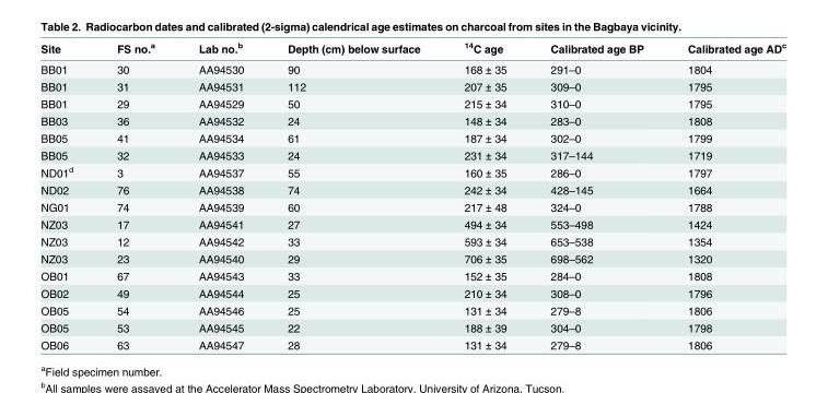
<table><thead><tr><td>Site</td><td>FS no.<sup>a</sup></td><td>Lab no.<sup>b</sup></td><td>Depth (cm) below surface</td><td><sup>14</sup>C age</td><td>Calibrated age BP</td><td>Calibrated age AD<sup>c</sup></td></tr></thead><tbody><tr><td>BB01</td><td>30</td><td>AA94530</td><td>90</td><td>168 ± 35</td><td>291–0</td><td>1804</td></tr><tr><td>BB01</td><td>31</td><td>AA94531</td><td>112</td><td>207 ± 35</td><td>309–0</td><td>1795</td></tr><tr><td>BB01</td><td>29</td><td>AA94529</td><td>50</td><td>215 ± 34</td><td>310–0</td><td>1795</td></tr><tr><td>BB03</td><td>36</td><td>AA94532</td><td>24</td><td>148 ± 34</td><td>283–0</td><td>1808</td></tr><tr><td>BB05</td><td>41</td><td>AA94534</td><td>61</td><td>187 ± 34</td><td>302–0</td><td>1799</td></tr><tr><td>BB05</td><td>32</td><td>AA94533</td><td>24</td><td>231 ± 34</td><td>317–144</td><td>1719</td></tr><tr><td>ND01<sup>d</sup></td><td>3</td><td>AA94537</td><td>55</td><td>160 ± 35</td><td>286–0</td><td>1797</td></tr><tr><td>ND02</td><td>76</td><td>AA94538</td><td>74</td><td>242 ± 34</td><td>428–145</td><td>1664</td></tr><tr><td>NG01</td><td>74</td><td>AA94539</td><td>60</td><td>217 ± 48</td><td>324–0</td><td>1788</td></tr><tr><td>NZ03</td><td>17</td><td>AA94541</td><td>27</td><td>494 ± 34</td><td>553–498</td><td>1424</td></tr><tr><td>NZ03</td><td>12</td><td>AA94542</td><td>33</td><td>593 ± 34</td><td>653–538</td><td>1354</td></tr><tr><td>NZ03</td><td>23</td><td>AA94540</td><td>29</td><td>706 ± 35</td><td>698–562</td><td>1320</td></tr><tr><td>OB01</td><td>67</td><td>AA94543</td><td>33</td><td>152 ± 35</td><td>284–0</td><td>1808</td></tr><tr><td>OB02</td><td>49</td><td>AA94544</td><td>25</td><td>210 ± 34</td><td>308–0</td><td>1796</td></tr><tr><td>OB05</td><td>54</td><td>AA94546</td><td>25</td><td>131 ± 34</td><td>279–8</td><td>1806</td></tr><tr><td>OB05</td><td>53</td><td>AA94545</td><td>22</td><td>188 ± 39</td><td>304–0</td><td>1798</td></tr><tr><td>OB06</td><td>63</td><td>AA94547</td><td>28</td><td>131 ± 34</td><td>279–8</td><td>1806</td></tr></tbody></table>